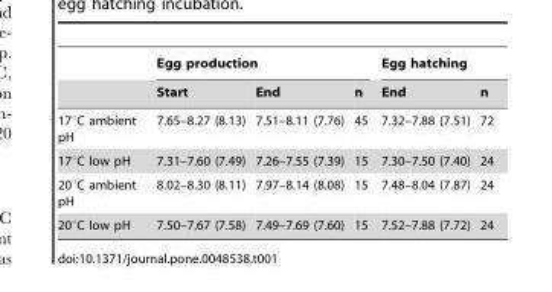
<table><thead><tr><td rowspan="2"></td><td colspan="3">Egg production</td><td colspan="2">Egg hatching</td></tr><tr><td>Start</td><td>End</td><td>n</td><td>End</td><td>n</td></tr></thead><tbody><tr><td>17°C ambient pH</td><td>7.65–8.27 (8.13)</td><td>7.51–8.11 (7.76)</td><td>45</td><td>7.32–7.88 (7.51)</td><td>72</td></tr><tr><td>17°C low pH</td><td>7.31–7.60 (7.49)</td><td>7.26–7.55 (7.39)</td><td>15</td><td>7.30–7.50 (7.40)</td><td>24</td></tr><tr><td>20°C ambient pH</td><td>8.02–8.30 (8.11)</td><td>7.97–8.14 (8.08)</td><td>15</td><td>7.48–8.04 (7.87)</td><td>24</td></tr><tr><td>20°C low pH</td><td>7.50–7.67 (7.58)</td><td>7.49–7.69 (7.60)</td><td>15</td><td>7.52–7.88 (7.72)</td><td>24</td></tr></tbody></table>